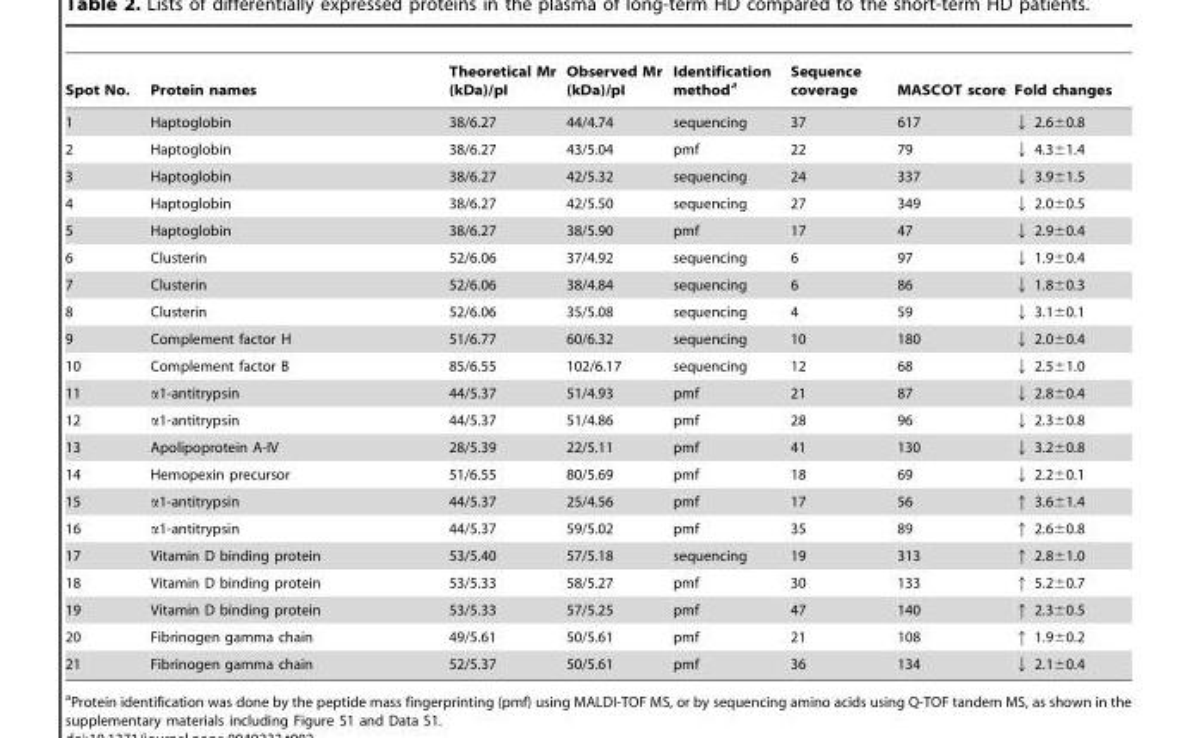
<table><thead><tr><td>Spot No.</td><td>Protein names</td><td>Theoretical Mr (kDa)/pI</td><td>Observed Mr (kDa)/pI</td><td>Identification method<sup>a</sup></td><td>Sequence coverage</td><td>MASCOT score</td><td>Fold changes</td></tr></thead><tbody><tr><td>1</td><td>Haptoglobin</td><td>38/6.27</td><td>44/4.74</td><td>sequencing</td><td>37</td><td>617</td><td>↓ 2.6±0.8</td></tr><tr><td>2</td><td>Haptoglobin</td><td>38/6.27</td><td>43/5.04</td><td>pmf</td><td>22</td><td>79</td><td>↓ 4.3±1.4</td></tr><tr><td>3</td><td>Haptoglobin</td><td>38/6.27</td><td>42/5.32</td><td>sequencing</td><td>24</td><td>337</td><td>↓ 3.9±1.5</td></tr><tr><td>4</td><td>Haptoglobin</td><td>38/6.27</td><td>42/5.50</td><td>sequencing</td><td>27</td><td>349</td><td>↓ 2.0±0.5</td></tr><tr><td>5</td><td>Haptoglobin</td><td>38/6.27</td><td>38/5.90</td><td>pmf</td><td>17</td><td>47</td><td>↓ 2.9±0.4</td></tr><tr><td>6</td><td>Clusterin</td><td>52/6.06</td><td>37/4.92</td><td>sequencing</td><td>6</td><td>97</td><td>↓ 1.9±0.4</td></tr><tr><td>7</td><td>Clusterin</td><td>52/6.06</td><td>38/4.84</td><td>sequencing</td><td>6</td><td>86</td><td>↓ 1.8±0.3</td></tr><tr><td>8</td><td>Clusterin</td><td>52/6.06</td><td>35/5.08</td><td>sequencing</td><td>4</td><td>59</td><td>↓ 3.1±0.1</td></tr><tr><td>9</td><td>Complement factor H</td><td>51/6.77</td><td>60/6.32</td><td>sequencing</td><td>10</td><td>180</td><td>↓ 2.0±0.4</td></tr><tr><td>10</td><td>Complement factor B</td><td>85/6.55</td><td>102/6.17</td><td>sequencing</td><td>12</td><td>68</td><td>↓ 2.5±1.0</td></tr><tr><td>11</td><td>α1-antitrypsin</td><td>44/5.37</td><td>51/4.93</td><td>pmf</td><td>21</td><td>87</td><td>↓ 2.8±0.4</td></tr><tr><td>12</td><td>α1-antitrypsin</td><td>44/5.37</td><td>51/4.86</td><td>pmf</td><td>28</td><td>96</td><td>↓ 2.3±0.8</td></tr><tr><td>13</td><td>Apolipoprotein A-IV</td><td>28/5.39</td><td>22/5.11</td><td>pmf</td><td>41</td><td>130</td><td>↓ 3.2±0.8</td></tr><tr><td>14</td><td>Hemopexin precursor</td><td>51/6.55</td><td>80/5.69</td><td>pmf</td><td>18</td><td>69</td><td>↓ 2.2±0.1</td></tr><tr><td>15</td><td>α1-antitrypsin</td><td>44/5.37</td><td>25/4.56</td><td>pmf</td><td>17</td><td>56</td><td>↑ 3.6±1.4</td></tr><tr><td>16</td><td>α1-antitrypsin</td><td>44/5.37</td><td>59/5.02</td><td>pmf</td><td>35</td><td>89</td><td>↑ 2.6±0.8</td></tr><tr><td>17</td><td>Vitamin D binding protein</td><td>53/5.40</td><td>57/5.18</td><td>sequencing</td><td>19</td><td>313</td><td>↑ 2.8±1.0</td></tr><tr><td>18</td><td>Vitamin D binding protein</td><td>53/5.33</td><td>58/5.27</td><td>pmf</td><td>30</td><td>133</td><td>↑ 5.2±0.7</td></tr><tr><td>19</td><td>Vitamin D binding protein</td><td>53/5.33</td><td>57/5.25</td><td>pmf</td><td>47</td><td>140</td><td>↑ 2.3±0.5</td></tr><tr><td>20</td><td>Fibrinogen gamma chain</td><td>49/5.61</td><td>50/5.61</td><td>pmf</td><td>21</td><td>108</td><td>↑ 1.9±0.2</td></tr><tr><td>21</td><td>Fibrinogen gamma chain</td><td>52/5.37</td><td>50/5.61</td><td>pmf</td><td>36</td><td>134</td><td>↓ 2.1±0.4</td></tr></tbody></table>